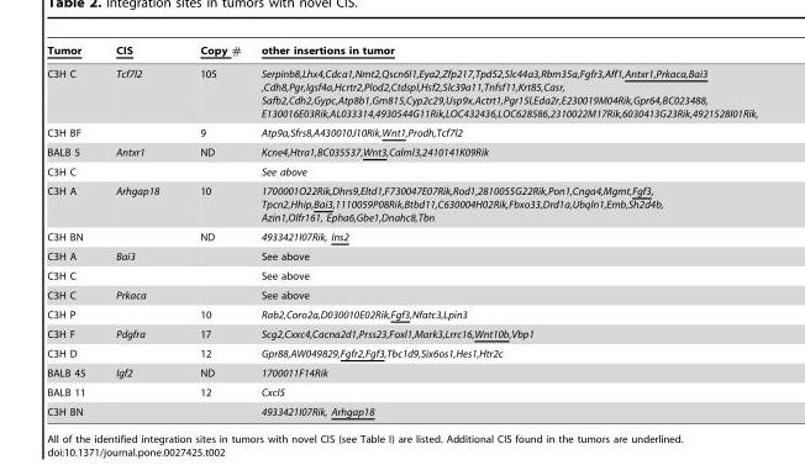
<table><thead><tr><td>Tumor</td><td>CIS</td><td>Copy #</td><td>other insertions in tumor</td></tr></thead><tbody><tr><td>C3H C</td><td>Tcf7l2</td><td>105</td><td>Serpinb8,Lhx4,Cdca1,Nmt2,Qscn6l1,Eya2,Zfp217,Tpd52,Slc44a3,Rbm35a,Fgfr3,Aff1,Antxr1,Prkaca,Bai3 ,Cdh8,Pgr,Igsf4a,Hcrtr2,Plod2,Ctdspl,Hsf2,Slc39a11,Tnfsf11,Krt85,Casr, Safb2,Cdh2,Gypc,Atp8b1,Gm815,Cyp2c29,Usp9x,Actrt1,Pgr15l,Eda2r,E230019M04Rik,Gpr64,BC023488, E130016E03Rik,AL033314,4930544G11Rik,LOC432436,LOC628586,2310022M17Rik,6030413G23Rik,4921528I01Rik,</td></tr><tr><td>C3H BF</td><td></td><td>9</td><td>Atp9a,Sfrs8,A430010J10Rik,Wnt1,Prodh,Tcf7l2</td></tr><tr><td>BALB 5</td><td>Antxr1</td><td>ND</td><td>Kcne4,Htra1,BC035537,Wnt3,Calml3,2410141K09Rik</td></tr><tr><td>C3H C</td><td></td><td></td><td>See above</td></tr><tr><td>C3H A</td><td>Arhgap18</td><td>10</td><td>1700001O22Rik,Dhrs9,Eltd1,F730047E07Rik,Rod1,2810055G22Rik,Pon1,Cnga4,Mgmt,Fgf3, Tpcn2,Hhip,Bai3,1110059P08Rik,Btbd11,C630004H02Rik,Fbxo33,Drd1a,Ubqln1,Emb,Sh2d4b, Azin1,Olfr161, Epha6,Gbe1,Dnahc8,Tbn</td></tr><tr><td>C3H BN</td><td></td><td>ND</td><td>4933421I07Rik, Ins2</td></tr><tr><td>C3H A</td><td>Bai3</td><td></td><td>See above</td></tr><tr><td>C3H C</td><td></td><td></td><td>See above</td></tr><tr><td>C3H C</td><td>Prkaca</td><td></td><td>See above</td></tr><tr><td>C3H P</td><td></td><td>10</td><td>Rab2,Coro2a,D030010E02Rik,Fgf3,Nfatc3,Lpin3</td></tr><tr><td>C3H F</td><td>Pdgfra</td><td>17</td><td>Scg2,Cxxc4,Cacna2d1,Prss23,Foxl1,Mark3,Lrrc16,Wnt10b,Vbp1</td></tr><tr><td>C3H D</td><td></td><td>12</td><td>Gpr88,AW049829,Fgfr2,Fgf3,Tbc1d9,Six6os1,Hes1,Htr2c</td></tr><tr><td>BALB 45</td><td>Igf2</td><td>ND</td><td>1700011F14Rik</td></tr><tr><td>BALB 11</td><td></td><td>12</td><td>Cxcl5</td></tr><tr><td>C3H BN</td><td></td><td></td><td>4933421I07Rik, Arhgap18</td></tr></tbody></table>